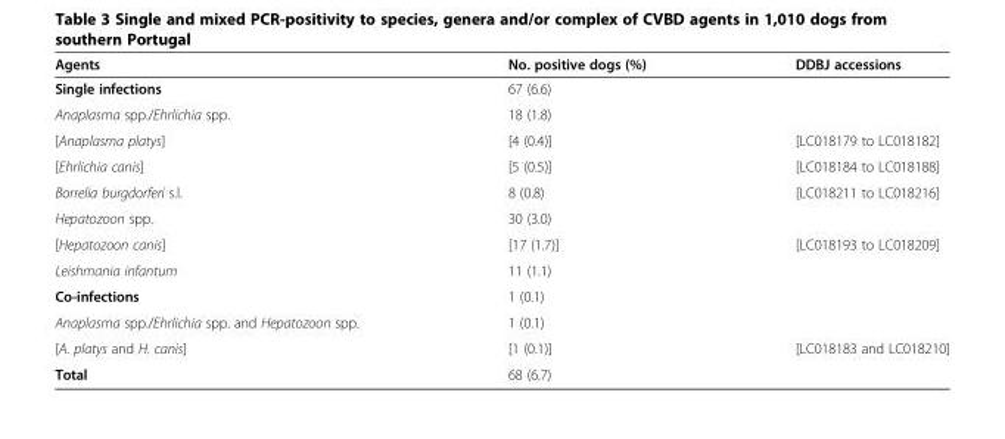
<table><thead><tr><td>Agents</td><td>No. positive dogs (%)</td><td>DDBJ accessions</td></tr></thead><tbody><tr><td>Single infections</td><td>67 (6.6)</td><td></td></tr><tr><td>Anaplasma spp./Ehrlichia spp.</td><td>18 (1.8)</td><td></td></tr><tr><td>[Anaplasma platys]</td><td>[4 (0.4)]</td><td>[LC018179 to LC018182]</td></tr><tr><td>[Ehrlichia canis]</td><td>[5 (0.5)]</td><td>[LC018184 to LC018188]</td></tr><tr><td>Borrelia burgdorferi s.l.</td><td>8 (0.8)</td><td>[LC018211 to LC018216]</td></tr><tr><td>Hepatozoon spp.</td><td>30 (3.0)</td><td></td></tr><tr><td>[Hepatozoon canis]</td><td>[17 (1.7)]</td><td>[LC018193 to LC018209]</td></tr><tr><td>Leishmania infantum</td><td>11 (1.1)</td><td></td></tr><tr><td>Co-infections</td><td>1 (0.1)</td><td></td></tr><tr><td>Anaplasma spp./Ehrlichia spp. and Hepatozoon spp.</td><td>1 (0.1)</td><td></td></tr><tr><td>[A. platys and H. canis]</td><td>[1 (0.1)]</td><td>[LC018183 and LC018210]</td></tr><tr><td>Total</td><td>68 (6.7)</td><td></td></tr></tbody></table>